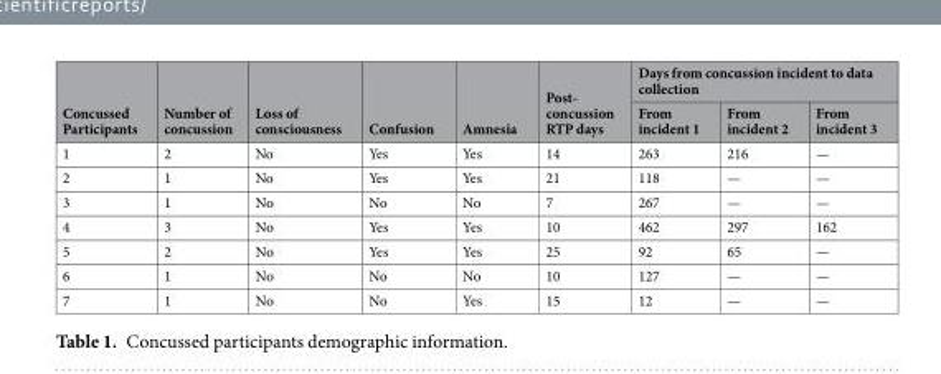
<table><thead><tr><td rowspan="2">Concussed Participants</td><td rowspan="2">Number of concussion</td><td rowspan="2">Loss of consciousness</td><td rowspan="2">Confusion</td><td rowspan="2">Amnesia</td><td rowspan="2">Post- concussion RTP days</td><td colspan="3">Days from concussion incident to data collection</td></tr><tr><td>From incident 1</td><td>From incident 2</td><td>From incident 3</td></tr></thead><tbody><tr><td>1</td><td>2</td><td>No</td><td>Yes</td><td>Yes</td><td>14</td><td>263</td><td>216</td><td>—</td></tr><tr><td>2</td><td>1</td><td>No</td><td>Yes</td><td>Yes</td><td>21</td><td>118</td><td>—</td><td>—</td></tr><tr><td>3</td><td>1</td><td>No</td><td>No</td><td>No</td><td>7</td><td>267</td><td>—</td><td>—</td></tr><tr><td>4</td><td>3</td><td>No</td><td>Yes</td><td>Yes</td><td>10</td><td>462</td><td>297</td><td>162</td></tr><tr><td>5</td><td>2</td><td>No</td><td>Yes</td><td>Yes</td><td>25</td><td>92</td><td>65</td><td>—</td></tr><tr><td>6</td><td>1</td><td>No</td><td>No</td><td>No</td><td>10</td><td>127</td><td>—</td><td>—</td></tr><tr><td>7</td><td>1</td><td>No</td><td>No</td><td>Yes</td><td>15</td><td>12</td><td>—</td><td>—</td></tr></tbody></table>